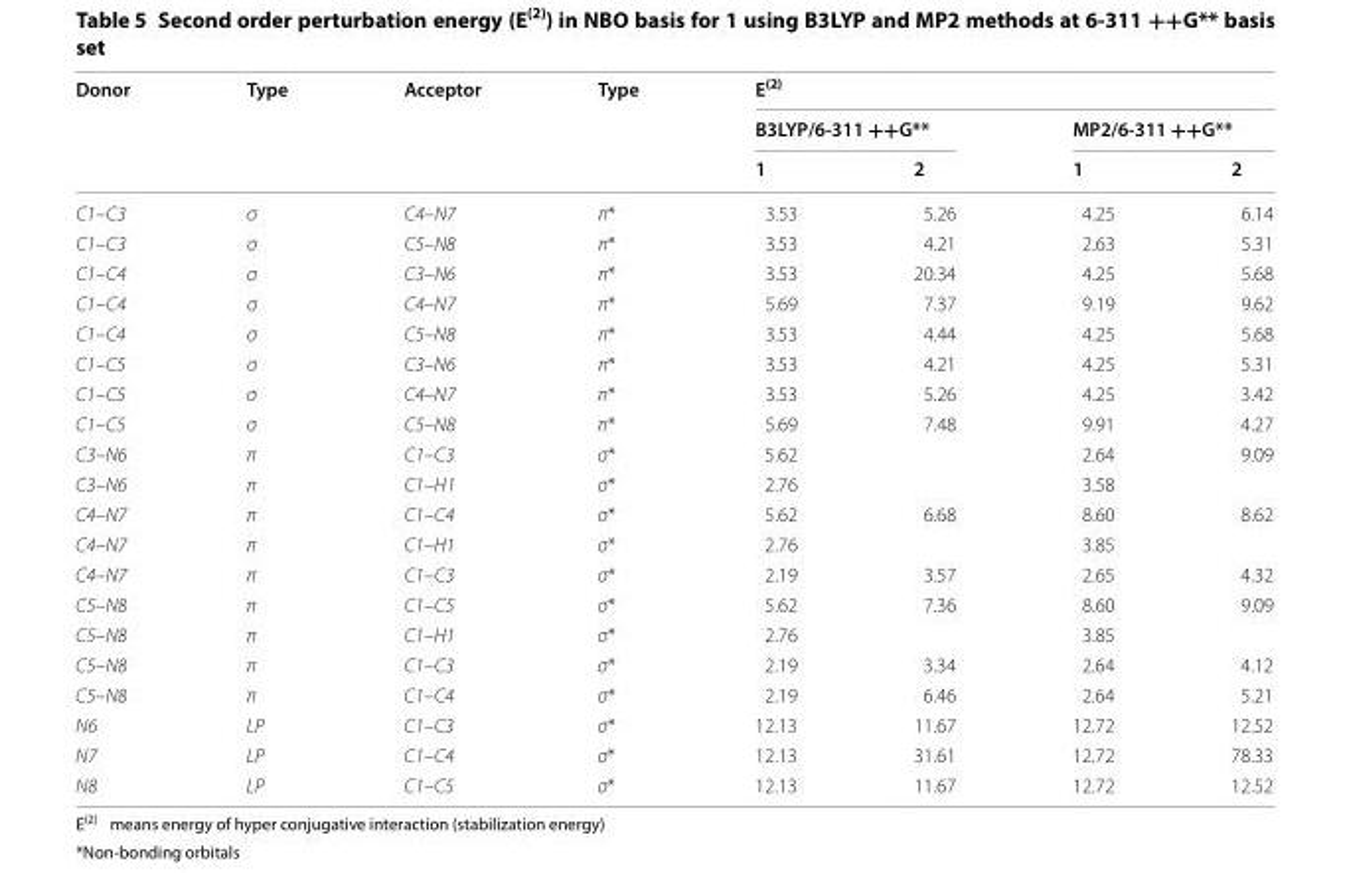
<table><thead><tr><td rowspan="3">Donor</td><td rowspan="3">Type</td><td rowspan="3">Acceptor</td><td rowspan="3">Type</td><td colspan="4">E<sup>(2)</sup></td></tr><tr><td colspan="2">B3LYP/6‑311 ++G**</td><td colspan="2">MP2/6‑311 ++G**</td></tr><tr><td>1</td><td>2</td><td>1</td><td>2</td></tr></thead><tbody><tr><td>C1–C3</td><td>σ</td><td>C4–N7</td><td>π*</td><td>3.53</td><td>5.26</td><td>4.25</td><td>6.14</td></tr><tr><td>C1–C3</td><td>σ</td><td>C5–N8</td><td>π*</td><td>3.53</td><td>4.21</td><td>2.63</td><td>5.31</td></tr><tr><td>C1–C4</td><td>σ</td><td>C3–N6</td><td>π*</td><td>3.53</td><td>20.34</td><td>4.25</td><td>5.68</td></tr><tr><td>C1–C4</td><td>σ</td><td>C4–N7</td><td>π*</td><td>5.69</td><td>7.37</td><td>9.19</td><td>9.62</td></tr><tr><td>C1–C4</td><td>σ</td><td>C5–N8</td><td>π*</td><td>3.53</td><td>4.44</td><td>4.25</td><td>5.68</td></tr><tr><td>C1–C5</td><td>σ</td><td>C3–N6</td><td>π*</td><td>3.53</td><td>4.21</td><td>4.25</td><td>5.31</td></tr><tr><td>C1–C5</td><td>σ</td><td>C4–N7</td><td>π*</td><td>3.53</td><td>5.26</td><td>4.25</td><td>3.42</td></tr><tr><td>C1–C5</td><td>σ</td><td>C5–N8</td><td>π*</td><td>5.69</td><td>7.48</td><td>9.91</td><td>4.27</td></tr><tr><td>C3–N6</td><td>π</td><td>C1–C3</td><td>σ*</td><td>5.62</td><td></td><td>2.64</td><td>9.09</td></tr><tr><td>C3–N6</td><td>π</td><td>C1–H1</td><td>σ*</td><td>2.76</td><td></td><td>3.58</td><td></td></tr><tr><td>C4–N7</td><td>π</td><td>C1–C4</td><td>σ*</td><td>5.62</td><td>6.68</td><td>8.60</td><td>8.62</td></tr><tr><td>C4–N7</td><td>π</td><td>C1–H1</td><td>σ*</td><td>2.76</td><td></td><td>3.85</td><td></td></tr><tr><td>C4–N7</td><td>π</td><td>C1–C3</td><td>σ*</td><td>2.19</td><td>3.57</td><td>2.65</td><td>4.32</td></tr><tr><td>C5–N8</td><td>π</td><td>C1–C5</td><td>σ*</td><td>5.62</td><td>7.36</td><td>8.60</td><td>9.09</td></tr><tr><td>C5–N8</td><td>π</td><td>C1–H1</td><td>σ*</td><td>2.76</td><td></td><td>3.85</td><td></td></tr><tr><td>C5–N8</td><td>π</td><td>C1–C3</td><td>σ*</td><td>2.19</td><td>3.34</td><td>2.64</td><td>4.12</td></tr><tr><td>C5–N8</td><td>π</td><td>C1–C4</td><td>σ*</td><td>2.19</td><td>6.46</td><td>2.64</td><td>5.21</td></tr><tr><td>N6</td><td>LP</td><td>C1–C3</td><td>σ*</td><td>12.13</td><td>11.67</td><td>12.72</td><td>12.52</td></tr><tr><td>N7</td><td>LP</td><td>C1–C4</td><td>σ*</td><td>12.13</td><td>31.61</td><td>12.72</td><td>78.33</td></tr><tr><td>N8</td><td>LP</td><td>C1–C5</td><td>σ*</td><td>12.13</td><td>11.67</td><td>12.72</td><td>12.52</td></tr></tbody></table>